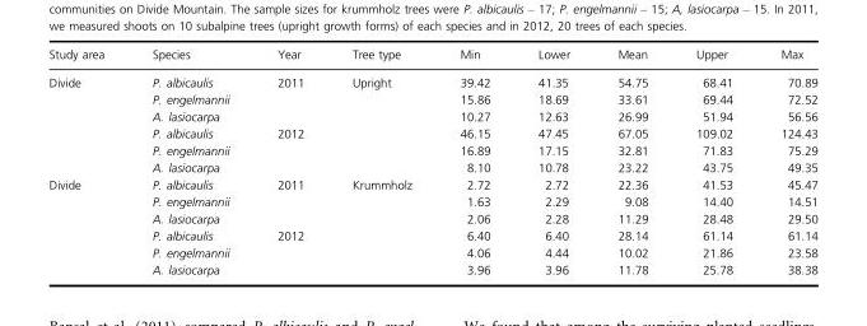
<table><thead><tr><td>Study area</td><td>Species</td><td>Year</td><td>Tree type</td><td>Min</td><td>Lower</td><td>Mean</td><td>Upper</td><td>Max</td></tr></thead><tbody><tr><td rowspan="6">Divide</td><td>P. albicaulis</td><td rowspan="3">2011</td><td rowspan="6">Upright</td><td>39.42</td><td>41.35</td><td>54.75</td><td>68.41</td><td>70.89</td></tr><tr><td>P. engelmannii</td><td>15.86</td><td>18.69</td><td>33.61</td><td>69.44</td><td>72.52</td></tr><tr><td>A. lasiocarpa</td><td>10.27</td><td>12.63</td><td>26.99</td><td>51.94</td><td>56.56</td></tr><tr><td>P. albicaulis</td><td rowspan="3">2012</td><td>46.15</td><td>47.45</td><td>67.05</td><td>109.02</td><td>124.43</td></tr><tr><td>P. engelmannii</td><td>16.89</td><td>17.15</td><td>32.81</td><td>71.83</td><td>75.29</td></tr><tr><td>A. lasiocarpa</td><td>8.10</td><td>10.78</td><td>23.22</td><td>43.75</td><td>49.35</td></tr><tr><td rowspan="6">Divide</td><td>P. albicaulis</td><td rowspan="3">2011</td><td rowspan="6">Krummholz</td><td>2.72</td><td>2.72</td><td>22.36</td><td>41.53</td><td>45.47</td></tr><tr><td>P. engelmannii</td><td>1.63</td><td>2.29</td><td>9.08</td><td>14.40</td><td>14.51</td></tr><tr><td>A. lasiocarpa</td><td>2.06</td><td>2.28</td><td>11.29</td><td>28.48</td><td>29.50</td></tr><tr><td>P. albicaulis</td><td rowspan="3">2012</td><td>6.40</td><td>6.40</td><td>28.14</td><td>61.14</td><td>61.14</td></tr><tr><td>P. engelmannii</td><td>4.06</td><td>4.44</td><td>10.02</td><td>21.86</td><td>23.58</td></tr><tr><td>A. lasiocarpa</td><td>3.96</td><td>3.96</td><td>11.78</td><td>25.78</td><td>38.38</td></tr></tbody></table>